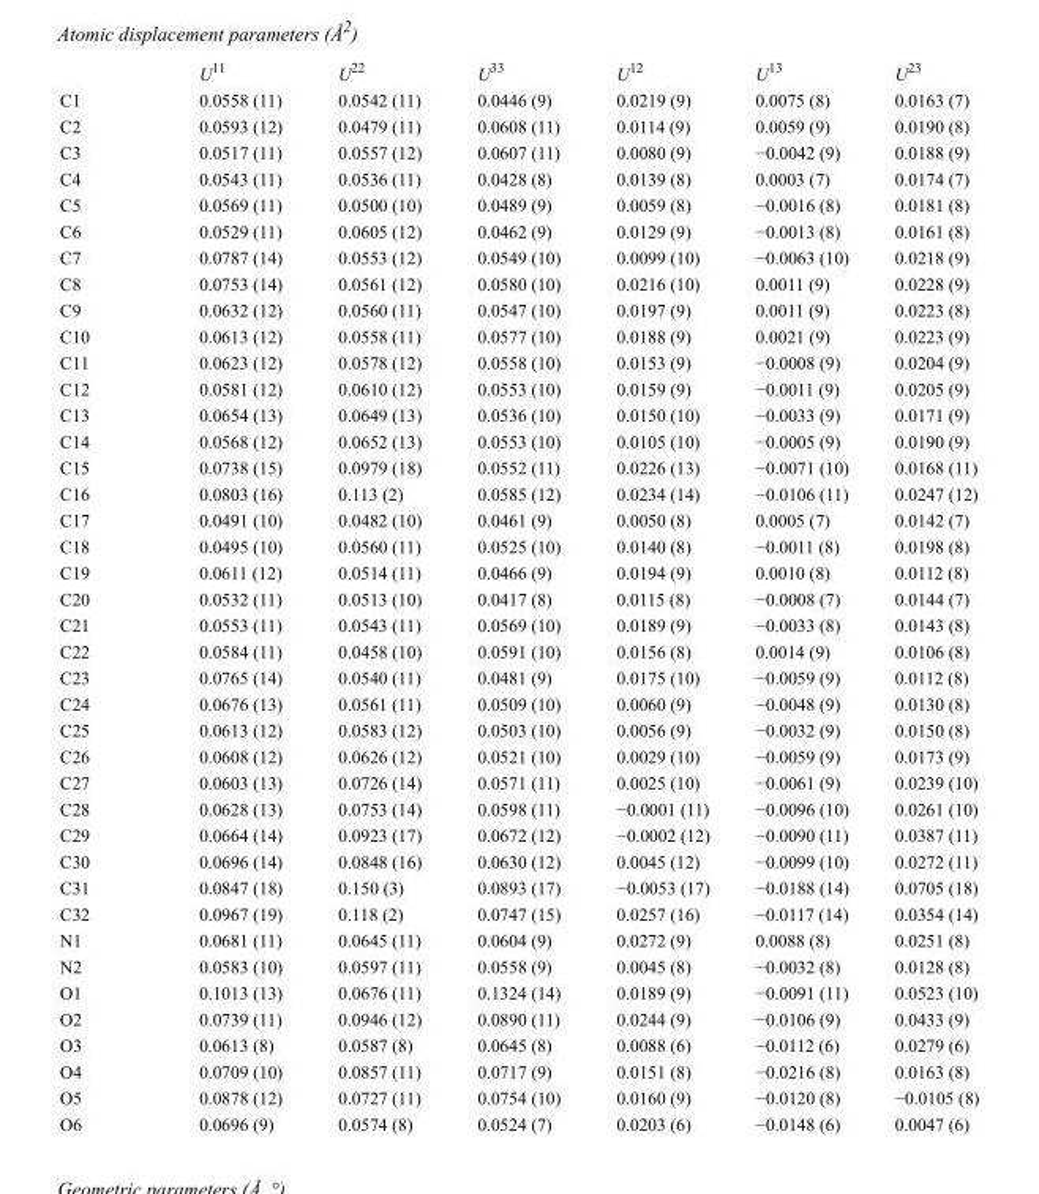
<table><thead><tr><td></td><td>U<sup>11</sup></td><td>U<sup>22</sup></td><td>U<sup>33</sup></td><td>U<sup>12</sup></td><td>U<sup>13</sup></td><td>U<sup>23</sup></td></tr></thead><tbody><tr><td>C1</td><td>0.0558 (11)</td><td>0.0542 (11)</td><td>0.0446 (9)</td><td>0.0219 (9)</td><td>0.0075 (8)</td><td>0.0163 (7)</td></tr><tr><td>C2</td><td>0.0593 (12)</td><td>0.0479 (11)</td><td>0.0608 (11)</td><td>0.0114 (9)</td><td>0.0059 (9)</td><td>0.0190 (8)</td></tr><tr><td>C3</td><td>0.0517 (11)</td><td>0.0557 (12)</td><td>0.0607 (11)</td><td>0.0080 (9)</td><td>−0.0042 (9)</td><td>0.0188 (9)</td></tr><tr><td>C4</td><td>0.0543 (11)</td><td>0.0536 (11)</td><td>0.0428 (8)</td><td>0.0139 (8)</td><td>0.0003 (7)</td><td>0.0174 (7)</td></tr><tr><td>C5</td><td>0.0569 (11)</td><td>0.0500 (10)</td><td>0.0489 (9)</td><td>0.0059 (8)</td><td>−0.0016 (8)</td><td>0.0181 (8)</td></tr><tr><td>C6</td><td>0.0529 (11)</td><td>0.0605 (12)</td><td>0.0462 (9)</td><td>0.0129 (9)</td><td>−0.0013 (8)</td><td>0.0161 (8)</td></tr><tr><td>C7</td><td>0.0787 (14)</td><td>0.0553 (12)</td><td>0.0549 (10)</td><td>0.0099 (10)</td><td>−0.0063 (10)</td><td>0.0218 (9)</td></tr><tr><td>C8</td><td>0.0753 (14)</td><td>0.0561 (12)</td><td>0.0580 (10)</td><td>0.0216 (10)</td><td>0.0011 (9)</td><td>0.0228 (9)</td></tr><tr><td>C9</td><td>0.0632 (12)</td><td>0.0560 (11)</td><td>0.0547 (10)</td><td>0.0197 (9)</td><td>0.0011 (9)</td><td>0.0223 (8)</td></tr><tr><td>C10</td><td>0.0613 (12)</td><td>0.0558 (11)</td><td>0.0577 (10)</td><td>0.0188 (9)</td><td>0.0021 (9)</td><td>0.0223 (9)</td></tr><tr><td>C11</td><td>0.0623 (12)</td><td>0.0578 (12)</td><td>0.0558 (10)</td><td>0.0153 (9)</td><td>−0.0008 (9)</td><td>0.0204 (9)</td></tr><tr><td>C12</td><td>0.0581 (12)</td><td>0.0610 (12)</td><td>0.0553 (10)</td><td>0.0159 (9)</td><td>−0.0011 (9)</td><td>0.0205 (9)</td></tr><tr><td>C13</td><td>0.0654 (13)</td><td>0.0649 (13)</td><td>0.0536 (10)</td><td>0.0150 (10)</td><td>−0.0033 (9)</td><td>0.0171 (9)</td></tr><tr><td>C14</td><td>0.0568 (12)</td><td>0.0652 (13)</td><td>0.0553 (10)</td><td>0.0105 (10)</td><td>−0.0005 (9)</td><td>0.0190 (9)</td></tr><tr><td>C15</td><td>0.0738 (15)</td><td>0.0979 (18)</td><td>0.0552 (11)</td><td>0.0226 (13)</td><td>−0.0071 (10)</td><td>0.0168 (11)</td></tr><tr><td>C16</td><td>0.0803 (16)</td><td>0.113 (2)</td><td>0.0585 (12)</td><td>0.0234 (14)</td><td>−0.0106 (11)</td><td>0.0247 (12)</td></tr><tr><td>C17</td><td>0.0491 (10)</td><td>0.0482 (10)</td><td>0.0461 (9)</td><td>0.0050 (8)</td><td>0.0005 (7)</td><td>0.0142 (7)</td></tr><tr><td>C18</td><td>0.0495 (10)</td><td>0.0560 (11)</td><td>0.0525 (10)</td><td>0.0140 (8)</td><td>−0.0011 (8)</td><td>0.0198 (8)</td></tr><tr><td>C19</td><td>0.0611 (12)</td><td>0.0514 (11)</td><td>0.0466 (9)</td><td>0.0194 (9)</td><td>0.0010 (8)</td><td>0.0112 (8)</td></tr><tr><td>C20</td><td>0.0532 (11)</td><td>0.0513 (10)</td><td>0.0417 (8)</td><td>0.0115 (8)</td><td>−0.0008 (7)</td><td>0.0144 (7)</td></tr><tr><td>C21</td><td>0.0553 (11)</td><td>0.0543 (11)</td><td>0.0569 (10)</td><td>0.0189 (9)</td><td>−0.0033 (8)</td><td>0.0143 (8)</td></tr><tr><td>C22</td><td>0.0584 (11)</td><td>0.0458 (10)</td><td>0.0591 (10)</td><td>0.0156 (8)</td><td>0.0014 (9)</td><td>0.0106 (8)</td></tr><tr><td>C23</td><td>0.0765 (14)</td><td>0.0540 (11)</td><td>0.0481 (9)</td><td>0.0175 (10)</td><td>−0.0059 (9)</td><td>0.0112 (8)</td></tr><tr><td>C24</td><td>0.0676 (13)</td><td>0.0561 (11)</td><td>0.0509 (10)</td><td>0.0060 (9)</td><td>−0.0048 (9)</td><td>0.0130 (8)</td></tr><tr><td>C25</td><td>0.0613 (12)</td><td>0.0583 (12)</td><td>0.0503 (10)</td><td>0.0056 (9)</td><td>−0.0032 (9)</td><td>0.0150 (8)</td></tr><tr><td>C26</td><td>0.0608 (12)</td><td>0.0626 (12)</td><td>0.0521 (10)</td><td>0.0029 (10)</td><td>−0.0059 (9)</td><td>0.0173 (9)</td></tr><tr><td>C27</td><td>0.0603 (13)</td><td>0.0726 (14)</td><td>0.0571 (11)</td><td>0.0025 (10)</td><td>−0.0061 (9)</td><td>0.0239 (10)</td></tr><tr><td>C28</td><td>0.0628 (13)</td><td>0.0753 (14)</td><td>0.0598 (11)</td><td>−0.0001 (11)</td><td>−0.0096 (10)</td><td>0.0261 (10)</td></tr><tr><td>C29</td><td>0.0664 (14)</td><td>0.0923 (17)</td><td>0.0672 (12)</td><td>−0.0002 (12)</td><td>−0.0090 (11)</td><td>0.0387 (11)</td></tr><tr><td>C30</td><td>0.0696 (14)</td><td>0.0848 (16)</td><td>0.0630 (12)</td><td>0.0045 (12)</td><td>−0.0099 (10)</td><td>0.0272 (11)</td></tr><tr><td>C31</td><td>0.0847 (18)</td><td>0.150 (3)</td><td>0.0893 (17)</td><td>−0.0053 (17)</td><td>−0.0188 (14)</td><td>0.0705 (18)</td></tr><tr><td>C32</td><td>0.0967 (19)</td><td>0.118 (2)</td><td>0.0747 (15)</td><td>0.0257 (16)</td><td>−0.0117 (14)</td><td>0.0354 (14)</td></tr><tr><td>N1</td><td>0.0681 (11)</td><td>0.0645 (11)</td><td>0.0604 (9)</td><td>0.0272 (9)</td><td>0.0088 (8)</td><td>0.0251 (8)</td></tr><tr><td>N2</td><td>0.0583 (10)</td><td>0.0597 (11)</td><td>0.0558 (9)</td><td>0.0045 (8)</td><td>−0.0032 (8)</td><td>0.0128 (8)</td></tr><tr><td>O1</td><td>0.1013 (13)</td><td>0.0676 (11)</td><td>0.1324 (14)</td><td>0.0189 (9)</td><td>−0.0091 (11)</td><td>0.0523 (10)</td></tr><tr><td>O2</td><td>0.0739 (11)</td><td>0.0946 (12)</td><td>0.0890 (11)</td><td>0.0244 (9)</td><td>−0.0106 (9)</td><td>0.0433 (9)</td></tr><tr><td>O3</td><td>0.0613 (8)</td><td>0.0587 (8)</td><td>0.0645 (8)</td><td>0.0088 (6)</td><td>−0.0112 (6)</td><td>0.0279 (6)</td></tr><tr><td>O4</td><td>0.0709 (10)</td><td>0.0857 (11)</td><td>0.0717 (9)</td><td>0.0151 (8)</td><td>−0.0216 (8)</td><td>0.0163 (8)</td></tr><tr><td>O5</td><td>0.0878 (12)</td><td>0.0727 (11)</td><td>0.0754 (10)</td><td>0.0160 (9)</td><td>−0.0120 (8)</td><td>−0.0105 (8)</td></tr><tr><td>O6</td><td>0.0696 (9)</td><td>0.0574 (8)</td><td>0.0524 (7)</td><td>0.0203 (6)</td><td>−0.0148 (6)</td><td>0.0047 (6)</td></tr></tbody></table>